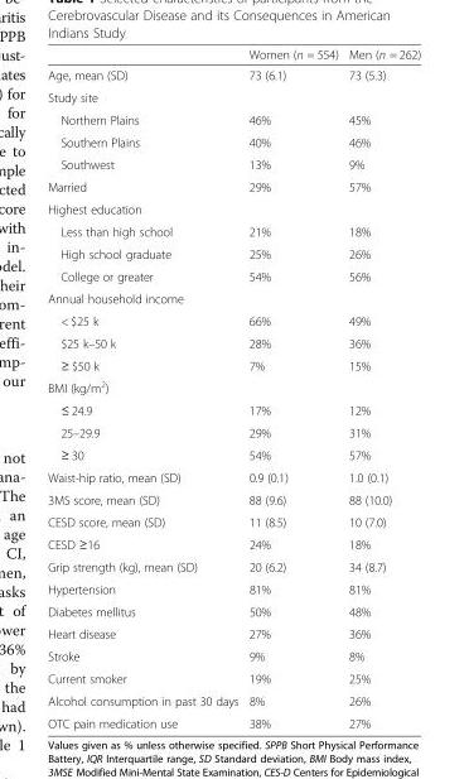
<table><thead><tr><td></td><td>Women (n = 554)</td><td>Men (n = 262)</td></tr></thead><tbody><tr><td>Age, mean (SD)</td><td>73 (6.1)</td><td>73 (5.3)</td></tr><tr><td colspan="3">Study site</td></tr><tr><td>Northern Plains</td><td>46%</td><td>45%</td></tr><tr><td>Southern Plains</td><td>40%</td><td>46%</td></tr><tr><td>Southwest</td><td>13%</td><td>9%</td></tr><tr><td>Married</td><td>29%</td><td>57%</td></tr><tr><td colspan="3">Highest education</td></tr><tr><td>Less than high school</td><td>21%</td><td>18%</td></tr><tr><td>High school graduate</td><td>25%</td><td>26%</td></tr><tr><td>College or greater</td><td>54%</td><td>56%</td></tr><tr><td colspan="3">Annual household income</td></tr><tr><td>&lt; $25 k</td><td>66%</td><td>49%</td></tr><tr><td>$25 k–50 k</td><td>28%</td><td>36%</td></tr><tr><td>≥ $50 k</td><td>7%</td><td>15%</td></tr><tr><td colspan="3">BMI (kg/m<sup>2</sup>)</td></tr><tr><td>≤ 24.9</td><td>17%</td><td>12%</td></tr><tr><td>25–29.9</td><td>29%</td><td>31%</td></tr><tr><td>≥ 30</td><td>54%</td><td>57%</td></tr><tr><td>Waist-hip ratio, mean (SD)</td><td>0.9 (0.1)</td><td>1.0 (0.1)</td></tr><tr><td>3MS score, mean (SD)</td><td>88 (9.6)</td><td>88 (10.0)</td></tr><tr><td>CESD score, mean (SD)</td><td>11 (8.5)</td><td>10 (7.0)</td></tr><tr><td>CESD ≥16</td><td>24%</td><td>18%</td></tr><tr><td>Grip strength (kg), mean (SD)</td><td>20 (6.2)</td><td>34 (8.7)</td></tr><tr><td>Hypertension</td><td>81%</td><td>81%</td></tr><tr><td>Diabetes mellitus</td><td>50%</td><td>48%</td></tr><tr><td>Heart disease</td><td>27%</td><td>36%</td></tr><tr><td>Stroke</td><td>9%</td><td>8%</td></tr><tr><td>Current smoker</td><td>19%</td><td>25%</td></tr><tr><td>Alcohol consumption in past 30 days</td><td>8%</td><td>26%</td></tr><tr><td>OTC pain medication use</td><td>38%</td><td>27%</td></tr></tbody></table>